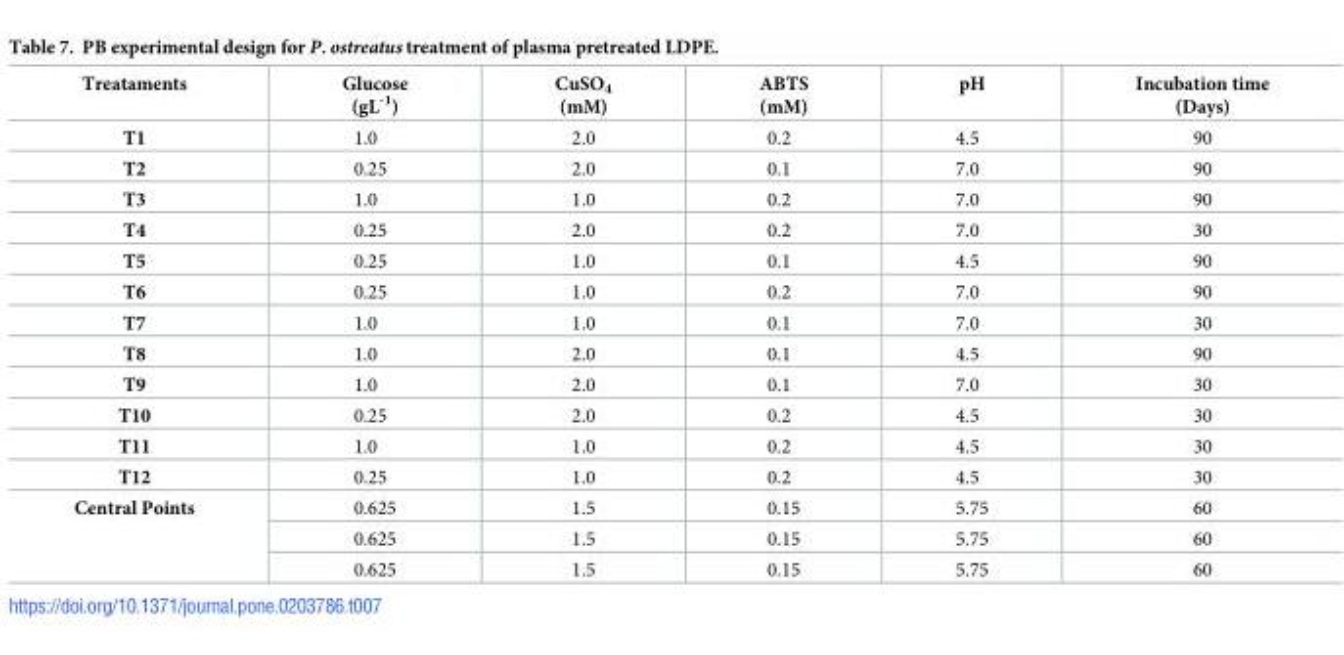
<table><thead><tr><td>Treataments</td><td>Glucose (gL<sup>-1</sup>)</td><td>CuSO<sub>4</sub> (mM)</td><td>ABTS (mM)</td><td>pH</td><td>Incubation time (Days)</td></tr></thead><tbody><tr><td>T1</td><td>1.0</td><td>2.0</td><td>0.2</td><td>4.5</td><td>90</td></tr><tr><td>T2</td><td>0.25</td><td>2.0</td><td>0.1</td><td>7.0</td><td>90</td></tr><tr><td>T3</td><td>1.0</td><td>1.0</td><td>0.2</td><td>7.0</td><td>90</td></tr><tr><td>T4</td><td>0.25</td><td>2.0</td><td>0.2</td><td>7.0</td><td>30</td></tr><tr><td>T5</td><td>0.25</td><td>1.0</td><td>0.1</td><td>4.5</td><td>90</td></tr><tr><td>T6</td><td>0.25</td><td>1.0</td><td>0.2</td><td>7.0</td><td>90</td></tr><tr><td>T7</td><td>1.0</td><td>1.0</td><td>0.1</td><td>7.0</td><td>30</td></tr><tr><td>T8</td><td>1.0</td><td>2.0</td><td>0.1</td><td>4.5</td><td>90</td></tr><tr><td>T9</td><td>1.0</td><td>2.0</td><td>0.1</td><td>7.0</td><td>30</td></tr><tr><td>T10</td><td>0.25</td><td>2.0</td><td>0.2</td><td>4.5</td><td>30</td></tr><tr><td>T11</td><td>1.0</td><td>1.0</td><td>0.2</td><td>4.5</td><td>30</td></tr><tr><td>T12</td><td>0.25</td><td>1.0</td><td>0.2</td><td>4.5</td><td>30</td></tr><tr><td rowspan="3">Central Points</td><td>0.625</td><td>1.5</td><td>0.15</td><td>5.75</td><td>60</td></tr><tr><td>0.625</td><td>1.5</td><td>0.15</td><td>5.75</td><td>60</td></tr><tr><td>0.625</td><td>1.5</td><td>0.15</td><td>5.75</td><td>60</td></tr></tbody></table>